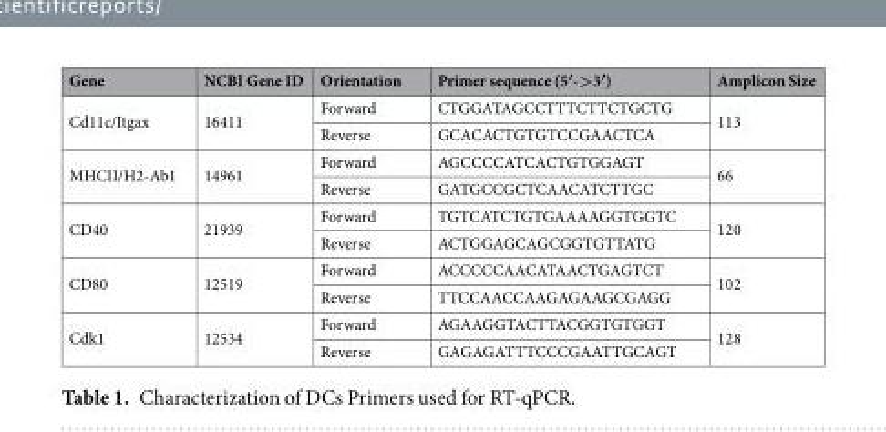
<table><thead><tr><td>Gene</td><td>NCBI Gene ID</td><td>Orientation</td><td>Primer sequence (5′-&gt;3′)</td><td>Amplicon Size</td></tr></thead><tbody><tr><td rowspan="2">Cd11c/Itgax</td><td rowspan="2">16411</td><td>Forward</td><td>CTGGATAGCCTTTCTTCTGCTG</td><td rowspan="2">113</td></tr><tr><td>Reverse</td><td>GCACACTGTGTCCGAACTCA</td></tr><tr><td rowspan="2">MHCII/H2-Ab1</td><td rowspan="2">14961</td><td>Forward</td><td>AGCCCCATCACTGTGGAGT</td><td rowspan="2">66</td></tr><tr><td>Reverse</td><td>GATGCCGCTCAACATCTTGC</td></tr><tr><td rowspan="2">CD40</td><td rowspan="2">21939</td><td>Forward</td><td>TGTCATCTGTGAAAAGGTGGTC</td><td rowspan="2">120</td></tr><tr><td>Reverse</td><td>ACTGGAGCAGCGGTGTTATG</td></tr><tr><td rowspan="2">CD80</td><td rowspan="2">12519</td><td>Forward</td><td>ACCCCCAACATAACTGAGTCT</td><td rowspan="2">102</td></tr><tr><td>Reverse</td><td>TTCCAACCAAGAGAAGCGAGG</td></tr><tr><td rowspan="2">Cdk1</td><td rowspan="2">12534</td><td>Forward</td><td>AGAAGGTACTTACGGTGTGGT</td><td rowspan="2">128</td></tr><tr><td>Reverse</td><td>GAGAGATTTCCCGAATTGCAGT</td></tr></tbody></table>